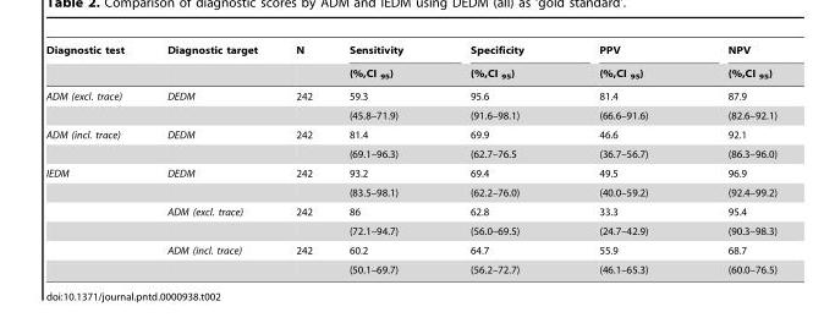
<table><thead><tr><td rowspan="2">Diagnostic test</td><td rowspan="2">Diagnostic target</td><td rowspan="2">N</td><td rowspan="2">Sensitivity (%,CI <sub>95</sub>)</td><td rowspan="2">Specificity (%,CI <sub>95</sub>)</td><td rowspan="2">PPV (%,CI <sub>95</sub>)</td><td rowspan="2">NPV (%,CI <sub>95</sub>)</td></tr><tr></tr></thead><tbody><tr><td rowspan="2">ADM (excl. trace)</td><td>DEDM</td><td>242</td><td>59.3</td><td>95.6</td><td>81.4</td><td>87.9</td></tr><tr><td></td><td></td><td>(45.8–71.9)</td><td>(91.6–98.1)</td><td>(66.6–91.6)</td><td>(82.6–92.1)</td></tr><tr><td rowspan="2">ADM (incl. trace)</td><td>DEDM</td><td>242</td><td>81.4</td><td>69.9</td><td>46.6</td><td>92.1</td></tr><tr><td></td><td></td><td>(69.1–96.3)</td><td>(62.7–76.5</td><td>(36.7–56.7)</td><td>(86.3–96.0)</td></tr><tr><td rowspan="6">IEDM</td><td>DEDM</td><td>242</td><td>93.2</td><td>69.4</td><td>49.5</td><td>96.9</td></tr><tr><td></td><td></td><td>(83.5–98.1)</td><td>(62.2–76.0)</td><td>(40.0–59.2)</td><td>(92.4–99.2)</td></tr><tr><td>ADM (excl. trace)</td><td>242</td><td>86</td><td>62.8</td><td>33.3</td><td>95.4</td></tr><tr><td></td><td></td><td>(72.1–94.7)</td><td>(56.0–69.5)</td><td>(24.7–42.9)</td><td>(90.3–98.3)</td></tr><tr><td>ADM (incl. trace)</td><td>242</td><td>60.2</td><td>64.7</td><td>55.9</td><td>68.7</td></tr><tr><td></td><td></td><td>(50.1–69.7)</td><td>(56.2–72.7)</td><td>(46.1–65.3)</td><td>(60.0–76.5)</td></tr></tbody></table>